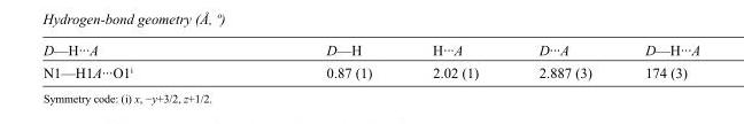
<table><tbody><tr><td>D—H···A</td><td>D—H</td><td>H···A</td><td>D···A</td><td>D—H···A</td></tr><tr><td>N1—H1A···O1<sup>i</sup></td><td>0.87 (1)</td><td>2.02 (1)</td><td>2.887 (3)</td><td>174 (3)</td></tr></tbody></table>